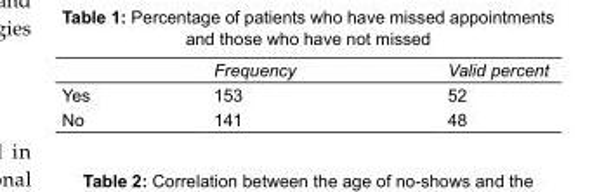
<table><thead><tr><td></td><td>Frequency</td><td>Valid percent</td></tr></thead><tbody><tr><td>Yes</td><td>153</td><td>52</td></tr><tr><td>No</td><td>141</td><td>48</td></tr></tbody></table>